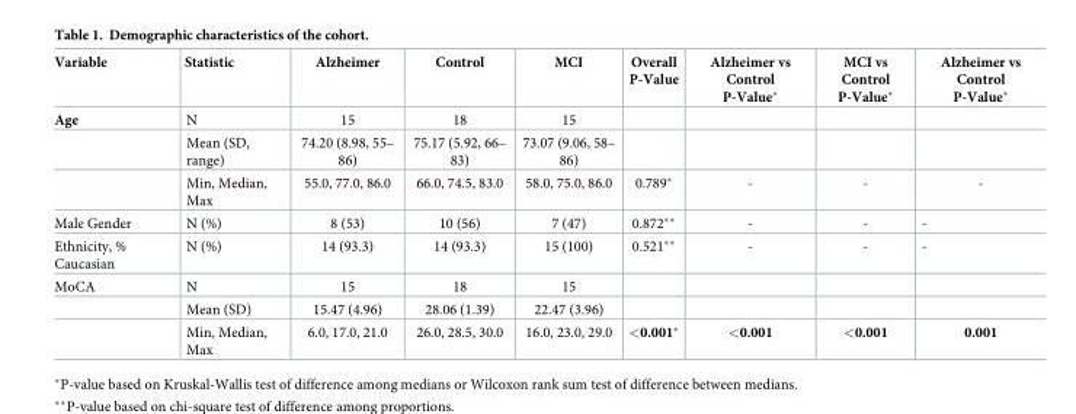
<table><thead><tr><td>Variable</td><td>Statistic</td><td>Alzheimer</td><td>Control</td><td>MCI</td><td>Overall P-Value</td><td>Alzheimer vs Control P-Value*</td><td>MCI vs Control P-Value*</td><td>Alzheimer vs Control P-Value*</td></tr></thead><tbody><tr><td rowspan="3">Age</td><td>N</td><td>15</td><td>18</td><td>15</td><td></td><td></td><td></td><td></td></tr><tr><td>Mean (SD, range)</td><td>74.20 (8.98, 55– 86)</td><td>75.17 (5.92, 66– 83)</td><td>73.07 (9.06, 58– 86)</td><td></td><td></td><td></td><td></td></tr><tr><td>Min, Median, Max</td><td>55.0, 77.0, 86.0</td><td>66.0, 74.5, 83.0</td><td>58.0, 75.0, 86.0</td><td>0.789*</td><td>-</td><td>-</td><td>-</td></tr><tr><td>Male Gender</td><td>N (%)</td><td>8 (53)</td><td>10 (56)</td><td>7 (47)</td><td>0.872**</td><td>-</td><td>-</td><td>-</td></tr><tr><td>Ethnicity, % Caucasian</td><td>N (%)</td><td>14 (93.3)</td><td>14 (93.3)</td><td>15 (100)</td><td>0.521**</td><td>-</td><td>-</td><td>-</td></tr><tr><td rowspan="3">MoCA</td><td>N</td><td>15</td><td>18</td><td>15</td><td></td><td></td><td></td><td></td></tr><tr><td>Mean (SD)</td><td>15.47 (4.96)</td><td>28.06 (1.39)</td><td>22.47 (3.96)</td><td></td><td></td><td></td><td></td></tr><tr><td>Min, Median, Max</td><td>6.0, 17.0, 21.0</td><td>26.0, 28.5, 30.0</td><td>16.0, 23.0, 29.0</td><td>&lt;0.001*</td><td>&lt;0.001</td><td>&lt;0.001</td><td>0.001</td></tr></tbody></table>